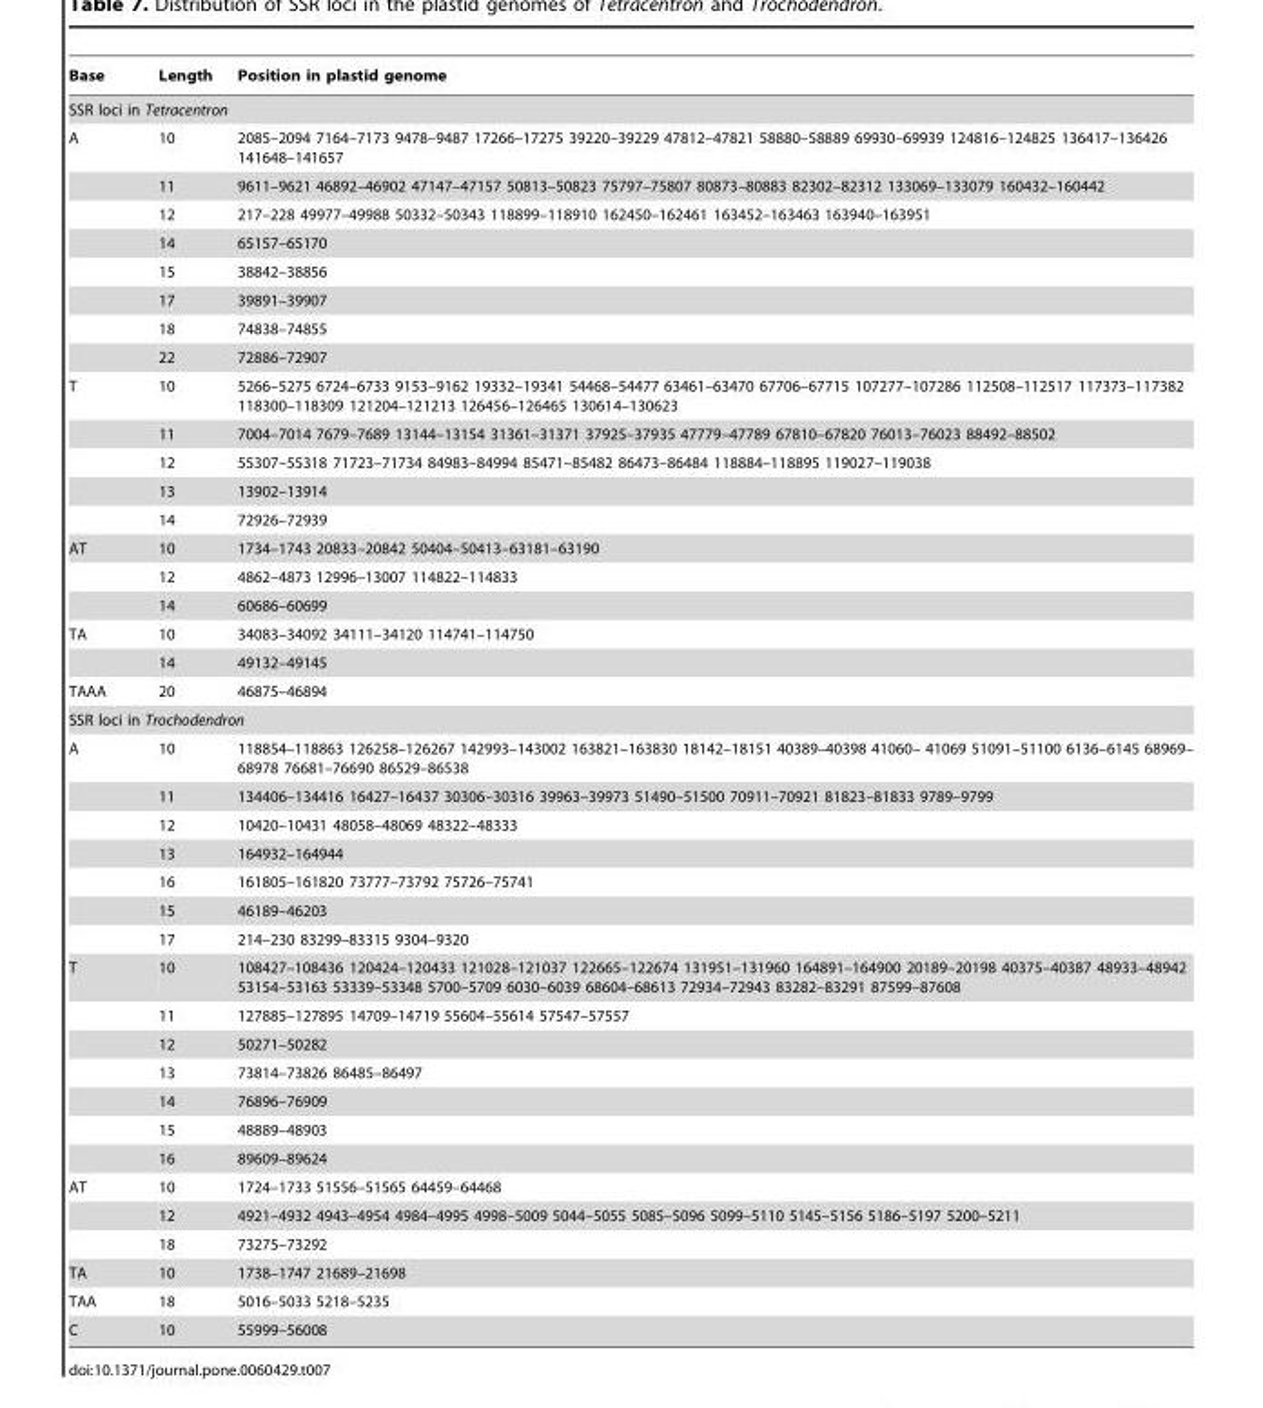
<table><thead><tr><td>Base</td><td>Length</td><td>Position in plastid genome</td></tr></thead><tbody><tr><td colspan="3">SSR loci in Tetracentron</td></tr><tr><td rowspan="8">A</td><td>10</td><td>2085–2094 7164–7173 9478–9487 17266–17275 39220–39229 47812–47821 58880–58889 69930–69939 124816–124825 136417–136426 141648–141657</td></tr><tr><td>11</td><td>9611–9621 46892–46902 47147–47157 50813–50823 75797–75807 80873–80883 82302–82312 133069–133079 160432–160442</td></tr><tr><td>12</td><td>217–228 49977–49988 50332–50343 118899–118910 162450–162461 163452–163463 163940–163951</td></tr><tr><td>14</td><td>65157–65170</td></tr><tr><td>15</td><td>38842–38856</td></tr><tr><td>17</td><td>39891–39907</td></tr><tr><td>18</td><td>74838–74855</td></tr><tr><td>22</td><td>72886–72907</td></tr><tr><td rowspan="5">T</td><td>10</td><td>5266–5275 6724–6733 9153–9162 19332–19341 54468–54477 63461–63470 67706–67715 107277–107286 112508–112517 117373–117382 118300–118309 121204–121213 126456–126465 130614–130623</td></tr><tr><td>11</td><td>7004–7014 7679–7689 13144–13154 31361–31371 37925–37935 47779–47789 67810–67820 76013–76023 88492–88502</td></tr><tr><td>12</td><td>55307–55318 71723–71734 84983–84994 85471–85482 86473–86484 118884–118895 119027–119038</td></tr><tr><td>13</td><td>13902–13914</td></tr><tr><td>14</td><td>72926–72939</td></tr><tr><td rowspan="3">AT</td><td>10</td><td>1734–1743 20833–20842 50404–50413–63181–63190</td></tr><tr><td>12</td><td>4862–4873 12996–13007 114822–114833</td></tr><tr><td>14</td><td>60686–60699</td></tr><tr><td rowspan="2">TA</td><td>10</td><td>34083–34092 34111–34120 114741–114750</td></tr><tr><td>14</td><td>49132–49145</td></tr><tr><td>TAAA</td><td>20</td><td>46875–46894</td></tr><tr><td colspan="3">SSR loci in Trochodendron</td></tr><tr><td rowspan="7">A</td><td>10</td><td>118854–118863 126258–126267 142993–143002 163821–163830 18142–18151 40389–40398 41060– 41069 51091–51100 6136–6145 68969– 68978 76681–76690 86529–86538</td></tr><tr><td>11</td><td>134406–134416 16427–16437 30306–30316 39963–39973 51490–51500 70911–70921 81823–81833 9789–9799</td></tr><tr><td>12</td><td>10420–10431 48058–48069 48322–48333</td></tr><tr><td>13</td><td>164932–164944</td></tr><tr><td>16</td><td>161805–161820 73777–73792 75726–75741</td></tr><tr><td>15</td><td>46189–46203</td></tr><tr><td>17</td><td>214–230 83299–83315 9304–9320</td></tr><tr><td rowspan="7">T</td><td>10</td><td>108427–108436 120424–120433 121028–121037 122665–122674 131951–131960 164891–164900 20189–20198 40375–40387 48933–48942 53154–53163 53339–53348 5700–5709 6030–6039 68604–68613 72934–72943 83282–83291 87599–87608</td></tr><tr><td>11</td><td>127885–127895 14709–14719 55604–55614 57547–57557</td></tr><tr><td>12</td><td>50271–50282</td></tr><tr><td>13</td><td>73814–73826 86485–86497</td></tr><tr><td>14</td><td>76896–76909</td></tr><tr><td>15</td><td>48889–48903</td></tr><tr><td>16</td><td>89609–89624</td></tr><tr><td rowspan="3">AT</td><td>10</td><td>1724–1733 51556–51565 64459–64468</td></tr><tr><td>12</td><td>4921–4932 4943–4954 4984–4995 4998–5009 5044–5055 5085–5096 5099–5110 5145–5156 5186–5197 5200–5211</td></tr><tr><td>18</td><td>73275–73292</td></tr><tr><td>TA</td><td>10</td><td>1738–1747 21689–21698</td></tr><tr><td>TAA</td><td>18</td><td>5016–5033 5218–5235</td></tr><tr><td>C</td><td>10</td><td>55999–56008</td></tr></tbody></table>